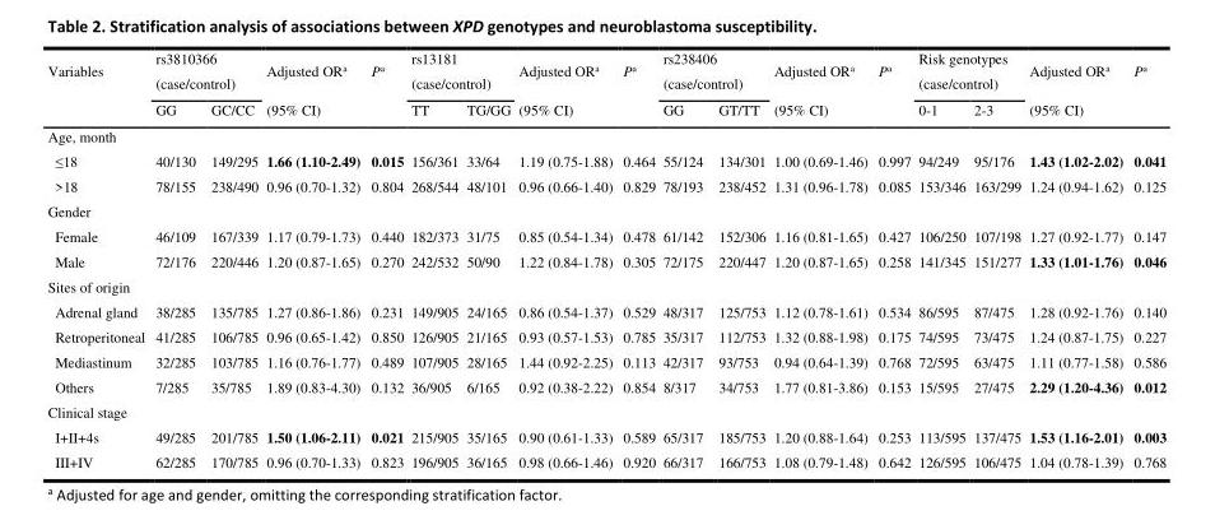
<table><tbody><tr><td rowspan="2">Variables</td><td colspan="2">rs3810366 (case/control)</td><td>Adjusted OR<sup>a</sup></td><td>P<sup>a</sup></td><td colspan="2">rs13181 (case/control)</td><td>Adjusted OR<sup>a</sup></td><td>P<sup>a</sup></td><td colspan="2">rs238406 (case/control)</td><td>Adjusted OR<sup>a</sup></td><td>P<sup>a</sup></td><td colspan="2">Risk genotypes (case/control)</td><td>Adjusted OR<sup>a</sup></td><td>P<sup>a</sup></td></tr><tr><td>GG</td><td>GC/CC</td><td>(95% CI)</td><td></td><td>TT</td><td>TG/GG</td><td>(95% CI)</td><td></td><td>GG</td><td>GT/TT</td><td>(95% CI)</td><td></td><td>0-1</td><td>2-3</td><td>(95% CI)</td><td></td></tr><tr><td colspan="17">Age, month</td></tr><tr><td>≤18</td><td>40/130</td><td>149/295</td><td>1.66 (1.10-2.49)</td><td>0.015</td><td>156/361</td><td>33/64</td><td>1.19 (0.75-1.88)</td><td>0.464</td><td>55/124</td><td>134/301</td><td>1.00 (0.69-1.46)</td><td>0.997</td><td>94/249</td><td>95/176</td><td>1.43 (1.02-2.02)</td><td>0.041</td></tr><tr><td>&gt;18</td><td>78/155</td><td>238/490</td><td>0.96 (0.70-1.32)</td><td>0.804</td><td>268/544</td><td>48/101</td><td>0.96 (0.66-1.40)</td><td>0.829</td><td>78/193</td><td>238/452</td><td>1.31 (0.96-1.78)</td><td>0.085</td><td>153/346</td><td>163/299</td><td>1.24 (0.94-1.62)</td><td>0.125</td></tr><tr><td colspan="17">Gender</td></tr><tr><td>Female</td><td>46/109</td><td>167/339</td><td>1.17 (0.79-1.73)</td><td>0.440</td><td>182/373</td><td>31/75</td><td>0.85 (0.54-1.34)</td><td>0.478</td><td>61/142</td><td>152/306</td><td>1.16 (0.81-1.65)</td><td>0.427</td><td>106/250</td><td>107/198</td><td>1.27 (0.92-1.77)</td><td>0.147</td></tr><tr><td>Male</td><td>72/176</td><td>220/446</td><td>1.20 (0.87-1.65)</td><td>0.270</td><td>242/532</td><td>50/90</td><td>1.22 (0.84-1.78)</td><td>0.305</td><td>72/175</td><td>220/447</td><td>1.20 (0.87-1.65)</td><td>0.258</td><td>141/345</td><td>151/277</td><td>1.33 (1.01-1.76)</td><td>0.046</td></tr><tr><td colspan="17">Sites of origin</td></tr><tr><td>Adrenal gland</td><td>38/285</td><td>135/785</td><td>1.27 (0.86-1.86)</td><td>0.231</td><td>149/905</td><td>24/165</td><td>0.86 (0.54-1.37)</td><td>0.529</td><td>48/317</td><td>125/753</td><td>1.12 (0.78-1.61)</td><td>0.534</td><td>86/595</td><td>87/475</td><td>1.28 (0.92-1.76)</td><td>0.140</td></tr><tr><td>Retroperitoneal</td><td>41/285</td><td>106/785</td><td>0.96 (0.65-1.42)</td><td>0.850</td><td>126/905</td><td>21/165</td><td>0.93 (0.57-1.53)</td><td>0.785</td><td>35/317</td><td>112/753</td><td>1.32 (0.88-1.98)</td><td>0.175</td><td>74/595</td><td>73/475</td><td>1.24 (0.87-1.75)</td><td>0.227</td></tr><tr><td>Mediastinum</td><td>32/285</td><td>103/785</td><td>1.16 (0.76-1.77)</td><td>0.489</td><td>107/905</td><td>28/165</td><td>1.44 (0.92-2.25)</td><td>0.113</td><td>42/317</td><td>93/753</td><td>0.94 (0.64-1.39)</td><td>0.768</td><td>72/595</td><td>63/475</td><td>1.11 (0.77-1.58)</td><td>0.586</td></tr><tr><td>Others</td><td>7/285</td><td>35/785</td><td>1.89 (0.83-4.30)</td><td>0.132</td><td>36/905</td><td>6/165</td><td>0.92 (0.38-2.22)</td><td>0.854</td><td>8/317</td><td>34/753</td><td>1.77 (0.81-3.86)</td><td>0.153</td><td>15/595</td><td>27/475</td><td>2.29 (1.20-4.36)</td><td>0.012</td></tr><tr><td colspan="17">Clinical stage</td></tr><tr><td>I+II+4s</td><td>49/285</td><td>201/785</td><td>1.50 (1.06-2.11)</td><td>0.021</td><td>215/905</td><td>35/165</td><td>0.90 (0.61-1.33)</td><td>0.589</td><td>65/317</td><td>185/753</td><td>1.20 (0.88-1.64)</td><td>0.253</td><td>113/595</td><td>137/475</td><td>1.53 (1.16-2.01)</td><td>0.003</td></tr><tr><td>III+IV</td><td>62/285</td><td>170/785</td><td>0.96 (0.70-1.33)</td><td>0.823</td><td>196/905</td><td>36/165</td><td>0.98 (0.66-1.46)</td><td>0.920</td><td>66/317</td><td>166/753</td><td>1.08 (0.79-1.48)</td><td>0.642</td><td>126/595</td><td>106/475</td><td>1.04 (0.78-1.39)</td><td>0.768</td></tr></tbody></table>